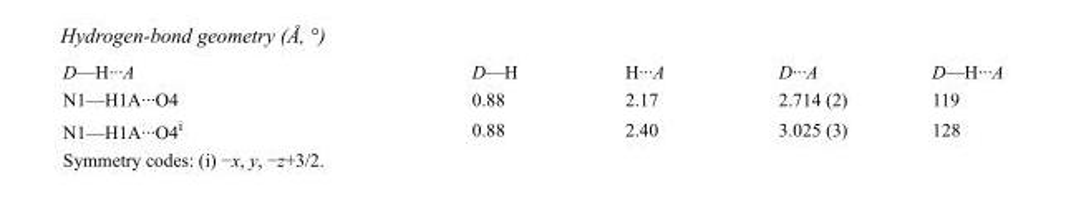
<table><tbody><tr><td>D—H···A</td><td>D—H</td><td>H···A</td><td>D···A</td><td>D—H···A</td></tr><tr><td>N1—H1A···O4</td><td>0.88</td><td>2.17</td><td>2.714 (2)</td><td>119</td></tr><tr><td>N1—H1A···O4<sup>i</sup></td><td>0.88</td><td>2.40</td><td>3.025 (3)</td><td>128</td></tr></tbody></table>